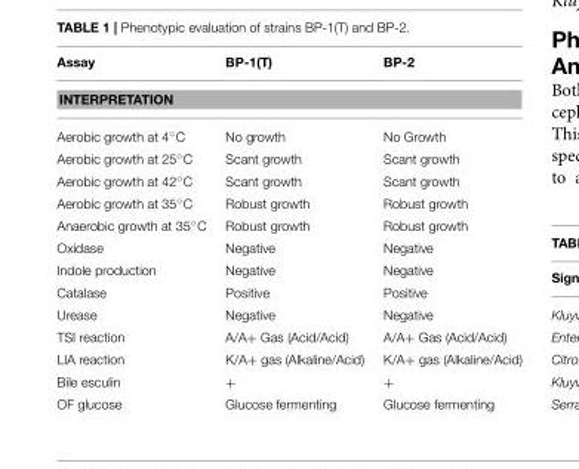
<table><thead><tr><td>Assay</td><td>BP-1(T)</td><td>BP-2</td></tr></thead><tbody><tr><td colspan="3">INTERPRETATION</td></tr><tr><td>Aerobic growth at 4◦C</td><td>No growth</td><td>No Growth</td></tr><tr><td>Aerobic growth at 25◦C</td><td>Scant growth</td><td>Scant growth</td></tr><tr><td>Aerobic growth at 42◦C</td><td>Scant growth</td><td>Scant growth</td></tr><tr><td>Aerobic growth at 35◦C</td><td>Robust growth</td><td>Robust growth</td></tr><tr><td>Anaerobic growth at 35◦C</td><td>Robust growth</td><td>Robust growth</td></tr><tr><td>Oxidase</td><td>Negative</td><td>Negative</td></tr><tr><td>Indole production</td><td>Negative</td><td>Negative</td></tr><tr><td>Catalase</td><td>Positive</td><td>Positive</td></tr><tr><td>Urease</td><td>Negative</td><td>Negative</td></tr><tr><td>TSI reaction</td><td>A/A+ Gas (Acid/Acid)</td><td>A/A+ Gas (Acid/Acid)</td></tr><tr><td>LIA reaction</td><td>K/A+ gas (Alkaline/Acid)</td><td>K/A+ gas (Alkaline/Acid)</td></tr><tr><td>Bile esculin</td><td>+</td><td>+</td></tr><tr><td>OF glucose</td><td>Glucose fermenting</td><td>Glucose fermenting</td></tr></tbody></table>